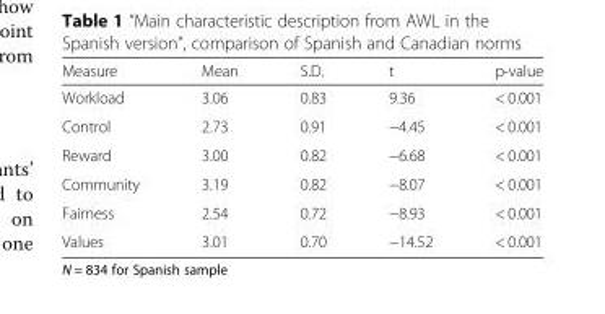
<table><thead><tr><td>Measure</td><td>Mean</td><td>S.D.</td><td>t</td><td>p-value</td></tr></thead><tbody><tr><td>Workload</td><td>3.06</td><td>0.83</td><td>9.36</td><td>&lt; 0.001</td></tr><tr><td>Control</td><td>2.73</td><td>0.91</td><td>−4.45</td><td>&lt; 0.001</td></tr><tr><td>Reward</td><td>3.00</td><td>0.82</td><td>−6.68</td><td>&lt; 0.001</td></tr><tr><td>Community</td><td>3.19</td><td>0.82</td><td>−8.07</td><td>&lt; 0.001</td></tr><tr><td>Fairness</td><td>2.54</td><td>0.72</td><td>−8.93</td><td>&lt; 0.001</td></tr><tr><td>Values</td><td>3.01</td><td>0.70</td><td>−14.52</td><td>&lt; 0.001</td></tr></tbody></table>